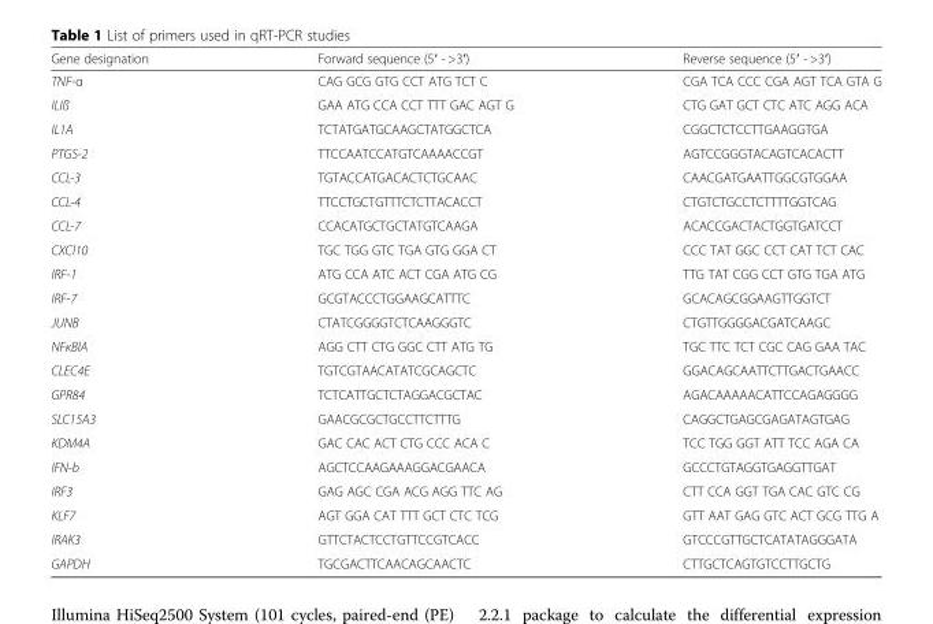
<table><thead><tr><td>Gene designation</td><td>Forward sequence (5′ - &gt;3′)</td><td>Reverse sequence (5′ - &gt;3′)</td></tr></thead><tbody><tr><td>TNF-α</td><td>CAG GCG GTG CCT ATG TCT C</td><td>CGA TCA CCC CGA AGT TCA GTA G</td></tr><tr><td>ILIß</td><td>GAA ATG CCA CCT TTT GAC AGT G</td><td>CTG GAT GCT CTC ATC AGG ACA</td></tr><tr><td>IL1A</td><td>TCTATGATGCAAGCTATGGCTCA</td><td>CGGCTCTCCTTGAAGGTGA</td></tr><tr><td>PTGS-2</td><td>TTCCAATCCATGTCAAAACCGT</td><td>AGTCCGGGTACAGTCACACTT</td></tr><tr><td>CCL-3</td><td>TGTACCATGACACTCTGCAAC</td><td>CAACGATGAATTGGCGTGGAA</td></tr><tr><td>CCL-4</td><td>TTCCTGCTGTTTCTCTTACACCT</td><td>CTGTCTGCCTCTTTTGGTCAG</td></tr><tr><td>CCL-7</td><td>CCACATGCTGCTATGTCAAGA</td><td>ACACCGACTACTGGTGATCCT</td></tr><tr><td>CXCl10</td><td>TGC TGG GTC TGA GTG GGA CT</td><td>CCC TAT GGC CCT CAT TCT CAC</td></tr><tr><td>IRF-1</td><td>ATG CCA ATC ACT CGA ATG CG</td><td>TTG TAT CGG CCT GTG TGA ATG</td></tr><tr><td>IRF-7</td><td>GCGTACCCTGGAAGCATTTC</td><td>GCACAGCGGAAGTTGGTCT</td></tr><tr><td>JUNB</td><td>CTATCGGGGTCTCAAGGGTC</td><td>CTGTTGGGGACGATCAAGC</td></tr><tr><td>NFκBIA</td><td>AGG CTT CTG GGC CTT ATG TG</td><td>TGC TTC TCT CGC CAG GAA TAC</td></tr><tr><td>CLEC4E</td><td>TGTCGTAACATATCGCAGCTC</td><td>GGACAGCAATTCTTGACTGAACC</td></tr><tr><td>GPR84</td><td>TCTCATTGCTCTAGGACGCTAC</td><td>AGACAAAAACATTCCAGAGGGG</td></tr><tr><td>SLC15A3</td><td>GAACGCGCTGCCTTCTTTG</td><td>CAGGCTGAGCGAGATAGTGAG</td></tr><tr><td>KDM4A</td><td>GAC CAC ACT CTG CCC ACA C</td><td>TCC TGG GGT ATT TCC AGA CA</td></tr><tr><td>IFN-b</td><td>AGCTCCAAGAAAGGACGAACA</td><td>GCCCTGTAGGTGAGGTTGAT</td></tr><tr><td>IRF3</td><td>GAG AGC CGA ACG AGG TTC AG</td><td>CTT CCA GGT TGA CAC GTC CG</td></tr><tr><td>KLF7</td><td>AGT GGA CAT TTT GCT CTC TCG</td><td>GTT AAT GAG GTC ACT GCG TTG A</td></tr><tr><td>IRAK3</td><td>GTTCTACTCCTGTTCCGTCACC</td><td>GTCCCGTTGCTCATATAGGGATA</td></tr><tr><td>GAPDH</td><td>TGCGACTTCAACAGCAACTC</td><td>CTTGCTCAGTGTCCTTGCTG</td></tr></tbody></table>